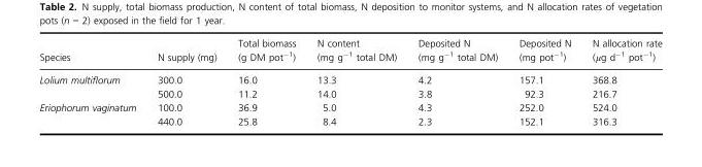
<table><thead><tr><td>Species</td><td>N supply (mg)</td><td>Total biomass (g DM pot<sup>−1</sup>)</td><td>N content (mg g<sup>−1</sup> total DM)</td><td>Deposited N (mg g<sup>−1</sup> total DM)</td><td>Deposited N (mg pot<sup>−1</sup>)</td><td>N allocation rate (μg d<sup>−1</sup> pot<sup>−1</sup>)</td></tr></thead><tbody><tr><td rowspan="2">Lolium multiflorum</td><td>300.0</td><td>16.0</td><td>13.3</td><td>4.2</td><td>157.1</td><td>368.8</td></tr><tr><td>500.0</td><td>11.2</td><td>14.0</td><td>3.8</td><td>92.3</td><td>216.7</td></tr><tr><td rowspan="2">Eriophorum vaginatum</td><td>100.0</td><td>36.9</td><td>5.0</td><td>4.3</td><td>252.0</td><td>524.0</td></tr><tr><td>440.0</td><td>25.8</td><td>8.4</td><td>2.3</td><td>152.1</td><td>316.3</td></tr></tbody></table>